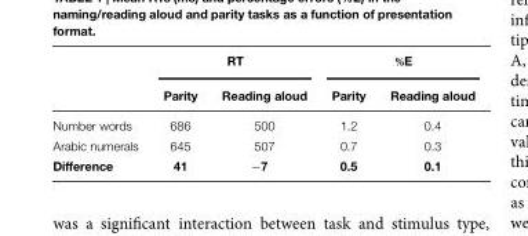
<table><thead><tr><td rowspan="2"></td><td colspan="2">RT</td><td colspan="2">%E</td></tr><tr><td>Parity</td><td>Reading aloud</td><td>Parity</td><td>Reading aloud</td></tr></thead><tbody><tr><td>Number words</td><td>686</td><td>500</td><td>1.2</td><td>0.4</td></tr><tr><td>Arabic numerals</td><td>645</td><td>507</td><td>0.7</td><td>0.3</td></tr><tr><td>Difference</td><td>41</td><td>−7</td><td>0.5</td><td>0.1</td></tr></tbody></table>